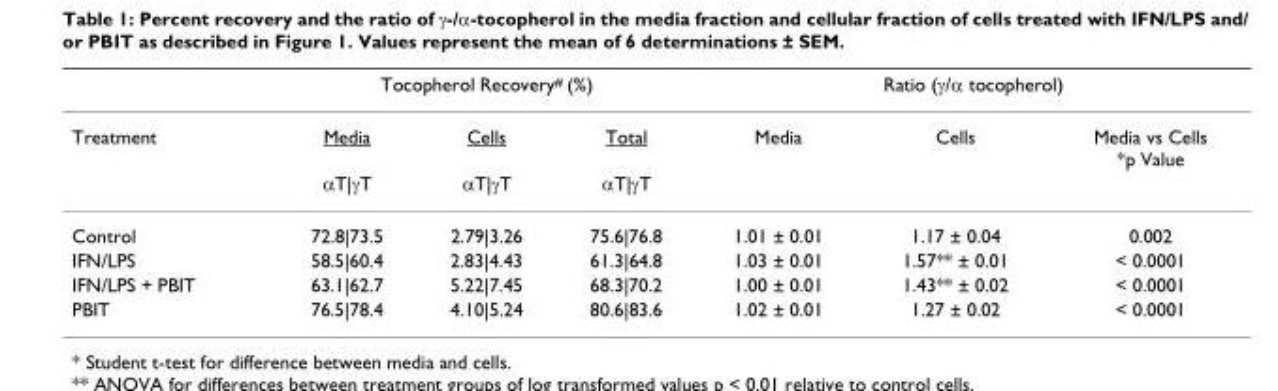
<table><thead><tr><td rowspan="2">Treatment</td><td colspan="3">Tocopherol Recovery<sup>#</sup> (%)</td><td colspan="3">Ratio (γ/α tocopherol)</td></tr><tr><td>Media</td><td>Cells</td><td>Total</td><td>Media</td><td>Cells</td><td>Media vs Cells *p Value</td></tr></thead><tbody><tr><td></td><td>αT|γT</td><td>αT|γT</td><td>αT|γT</td><td></td><td></td><td></td></tr><tr><td>Control</td><td>72.8|73.5</td><td>2.79|3.26</td><td>75.6|76.8</td><td>1.01 ± 0.01</td><td>1.17 ± 0.04</td><td>0.002</td></tr><tr><td>IFN/LPS</td><td>58.5|60.4</td><td>2.83|4.43</td><td>61.3|64.8</td><td>1.03 ± 0.01</td><td>1.57** ± 0.01</td><td>&lt; 0.0001</td></tr><tr><td>IFN/LPS + PBIT</td><td>63.1|62.7</td><td>5.22|7.45</td><td>68.3|70.2</td><td>1.00 ± 0.01</td><td>1.43** ± 0.02</td><td>&lt; 0.0001</td></tr><tr><td>PBIT</td><td>76.5|78.4</td><td>4.10|5.24</td><td>80.6|83.6</td><td>1.02 ± 0.01</td><td>1.27 ± 0.02</td><td>&lt; 0.0001</td></tr></tbody></table>